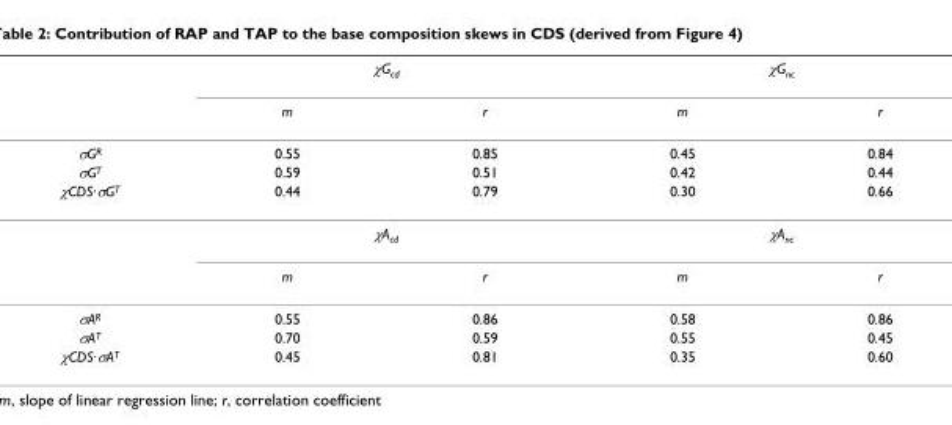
<table><thead><tr><td rowspan="2"></td><td colspan="2">χG<sub>cd</sub></td><td colspan="2">χG<sub>nc</sub></td></tr><tr><td>m</td><td>r</td><td>m</td><td>r</td></tr></thead><tbody><tr><td>σG<sup>R</sup></td><td>0.55</td><td>0.85</td><td>0.45</td><td>0.84</td></tr><tr><td>σG<sup>T</sup></td><td>0.59</td><td>0.51</td><td>0.42</td><td>0.44</td></tr><tr><td rowspan="3">χCDS·σG<sup>T</sup></td><td>0.44</td><td>0.79</td><td>0.30</td><td>0.66</td></tr><tr><td colspan="2">χA<sub>cd</sub></td><td colspan="2">χA<sub>nc</sub></td></tr><tr><td>m</td><td>r</td><td>m</td><td>r</td></tr><tr><td>σA<sup>R</sup></td><td>0.55</td><td>0.86</td><td>0.58</td><td>0.86</td></tr><tr><td>σA<sup>T</sup></td><td>0.70</td><td>0.59</td><td>0.55</td><td>0.45</td></tr><tr><td>χCDS·σA<sup>T</sup></td><td>0.45</td><td>0.81</td><td>0.35</td><td>0.60</td></tr></tbody></table>